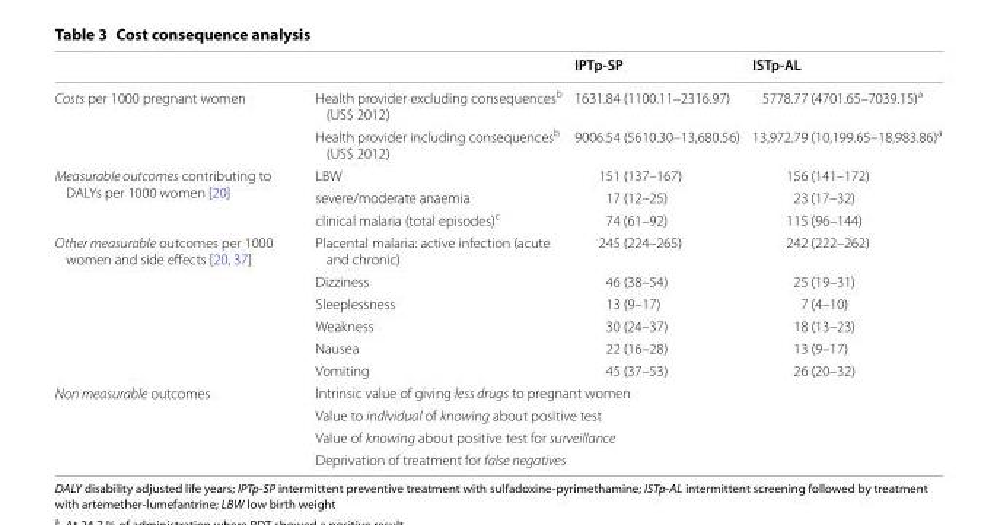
<table><thead><tr><td></td><td></td><td>IPTp‑SP</td><td>ISTp‑AL</td></tr></thead><tbody><tr><td rowspan="2">Costs per 1000 pregnant women</td><td>Health provider excluding consequences<sup>b</sup> (US$ 2012)</td><td>1631.84 (1100.11–2316.97)</td><td>5778.77 (4701.65–7039.15)<sup>a</sup></td></tr><tr><td>Health provider including consequences<sup>b</sup> (US$ 2012)</td><td>9006.54 (5610.30–13,680.56)</td><td>13,972.79 (10,199.65–18,983.86)<sup>a</sup></td></tr><tr><td rowspan="3">Measurable outcomes contributing to DALYs per 1000 women [20]</td><td>LBW</td><td>151 (137–167)</td><td>156 (141–172)</td></tr><tr><td>severe/moderate anaemia</td><td>17 (12–25)</td><td>23 (17–32)</td></tr><tr><td>clinical malaria (total episodes)<sup>c</sup></td><td>74 (61–92)</td><td>115 (96–144)</td></tr><tr><td rowspan="6">Other measurable outcomes per 1000 women and side effects [20, 37]</td><td>Placental malaria: active infection (acute and chronic)</td><td>245 (224–265)</td><td>242 (222–262)</td></tr><tr><td>Dizziness</td><td>46 (38–54)</td><td>25 (19–31)</td></tr><tr><td>Sleeplessness</td><td>13 (9–17)</td><td>7 (4–10)</td></tr><tr><td>Weakness</td><td>30 (24–37)</td><td>18 (13–23)</td></tr><tr><td>Nausea</td><td>22 (16–28)</td><td>13 (9–17)</td></tr><tr><td>Vomiting</td><td>45 (37–53)</td><td>26 (20–32)</td></tr><tr><td rowspan="4">Non measurable outcomes</td><td colspan="3">Intrinsic value of giving less drugs to pregnant women</td></tr><tr><td colspan="3">Value to individual of knowing about positive test</td></tr><tr><td colspan="3">Value of knowing about positive test for surveillance</td></tr><tr><td colspan="3">Deprivation of treatment for false negatives</td></tr></tbody></table>